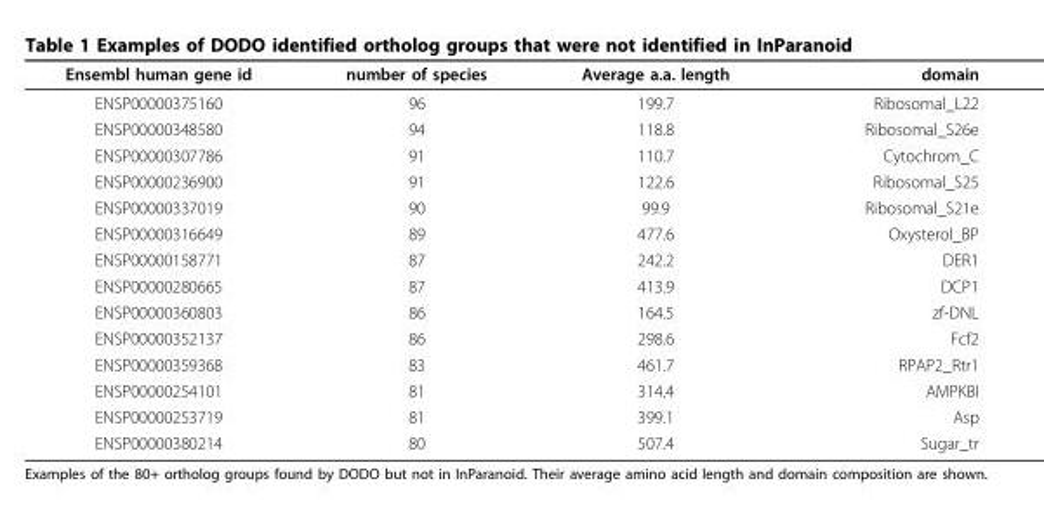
<table><thead><tr><td>Ensembl human gene id</td><td>number of species</td><td>Average a.a. length</td><td>domain</td></tr></thead><tbody><tr><td>ENSP00000375160</td><td>96</td><td>199.7</td><td>Ribosomal_L22</td></tr><tr><td>ENSP00000348580</td><td>94</td><td>118.8</td><td>Ribosomal_S26e</td></tr><tr><td>ENSP00000307786</td><td>91</td><td>110.7</td><td>Cytochrom_C</td></tr><tr><td>ENSP00000236900</td><td>91</td><td>122.6</td><td>Ribosomal_S25</td></tr><tr><td>ENSP00000337019</td><td>90</td><td>99.9</td><td>Ribosomal_S21e</td></tr><tr><td>ENSP00000316649</td><td>89</td><td>477.6</td><td>Oxysterol_BP</td></tr><tr><td>ENSP00000158771</td><td>87</td><td>242.2</td><td>DER1</td></tr><tr><td>ENSP00000280665</td><td>87</td><td>413.9</td><td>DCP1</td></tr><tr><td>ENSP00000360803</td><td>86</td><td>164.5</td><td>zf-DNL</td></tr><tr><td>ENSP00000352137</td><td>86</td><td>298.6</td><td>Fcf2</td></tr><tr><td>ENSP00000359368</td><td>83</td><td>461.7</td><td>RPAP2_Rtr1</td></tr><tr><td>ENSP00000254101</td><td>81</td><td>314.4</td><td>AMPKBI</td></tr><tr><td>ENSP00000253719</td><td>81</td><td>399.1</td><td>Asp</td></tr><tr><td>ENSP00000380214</td><td>80</td><td>507.4</td><td>Sugar_tr</td></tr></tbody></table>